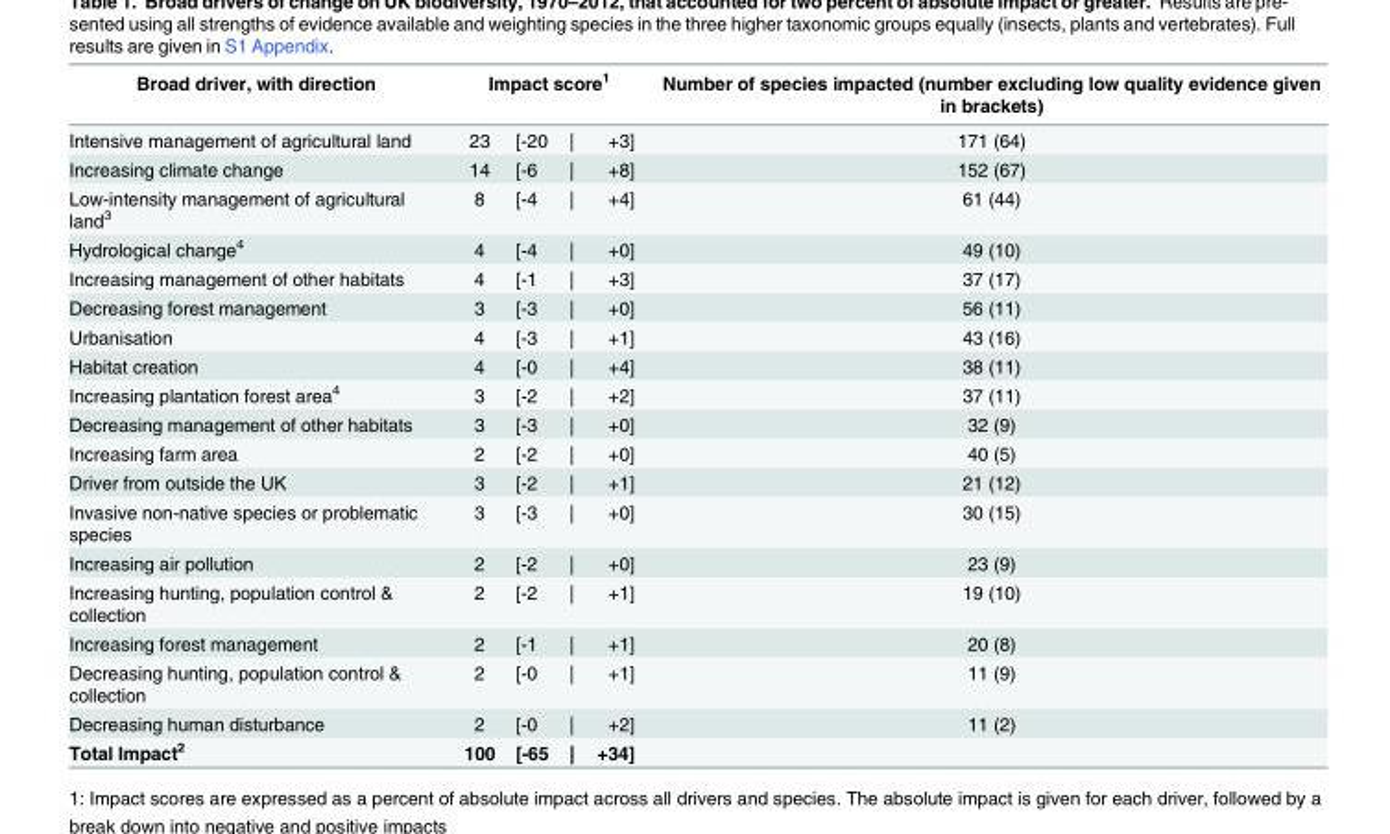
<table><thead><tr><td rowspan="2">Broad driver, with direction Intensive management of agricultural land</td><td colspan="4">Impact score<sup>1</sup></td><td rowspan="2">Number of species impacted (number excluding low quality evidence given in brackets) 171 (64)</td></tr><tr><td>23</td><td>[-20</td><td>|</td><td>+3]</td></tr></thead><tbody><tr><td>Increasing climate change</td><td>14</td><td>[-6</td><td>|</td><td>+8]</td><td>152 (67)</td></tr><tr><td>Low-intensity management of agricultural land<sup>3</sup></td><td>8</td><td>[-4</td><td>|</td><td>+4]</td><td>61 (44)</td></tr><tr><td>Hydrological change<sup>4</sup></td><td>4</td><td>[-4</td><td>|</td><td>+0]</td><td>49 (10)</td></tr><tr><td>Increasing management of other habitats</td><td>4</td><td>[-1</td><td>|</td><td>+3]</td><td>37 (17)</td></tr><tr><td>Decreasing forest management</td><td>3</td><td>[-3</td><td>|</td><td>+0]</td><td>56 (11)</td></tr><tr><td>Urbanisation</td><td>4</td><td>[-3</td><td>|</td><td>+1]</td><td>43 (16)</td></tr><tr><td>Habitat creation</td><td>4</td><td>[-0</td><td>|</td><td>+4]</td><td>38 (11)</td></tr><tr><td>Increasing plantation forest area<sup>4</sup></td><td>3</td><td>[-2</td><td>|</td><td>+2]</td><td>37 (11)</td></tr><tr><td>Decreasing management of other habitats</td><td>3</td><td>[-3</td><td>|</td><td>+0]</td><td>32 (9)</td></tr><tr><td>Increasing farm area</td><td>2</td><td>[-2</td><td>|</td><td>+0]</td><td>40 (5)</td></tr><tr><td>Driver from outside the UK</td><td>3</td><td>[-2</td><td>|</td><td>+1]</td><td>21 (12)</td></tr><tr><td>Invasive non-native species or problematic species</td><td>3</td><td>[-3</td><td>|</td><td>+0]</td><td>30 (15)</td></tr><tr><td>Increasing air pollution</td><td>2</td><td>[-2</td><td>|</td><td>+0]</td><td>23 (9)</td></tr><tr><td>Increasing hunting, population control &amp; collection</td><td>2</td><td>[-2</td><td>|</td><td>+1]</td><td>19 (10)</td></tr><tr><td>Increasing forest management</td><td>2</td><td>[-1</td><td>|</td><td>+1]</td><td>20 (8)</td></tr><tr><td>Decreasing hunting, population control &amp; collection</td><td>2</td><td>[-0</td><td>|</td><td>+1]</td><td>11 (9)</td></tr><tr><td>Decreasing human disturbance</td><td>2</td><td>[-0</td><td>|</td><td>+2]</td><td>11 (2)</td></tr><tr><td>Total Impact<sup>2</sup></td><td>100</td><td>[-65</td><td>|</td><td>+34]</td><td></td></tr></tbody></table>